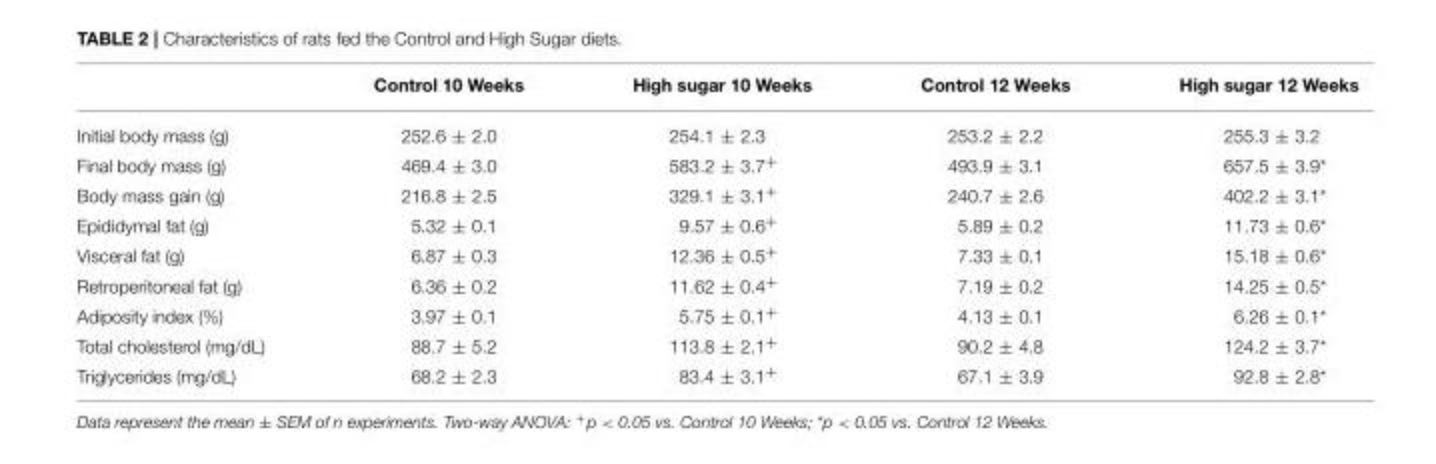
<table><thead><tr><td></td><td>Control 10 Weeks</td><td>High sugar 10 Weeks</td><td>Control 12 Weeks</td><td>High sugar 12 Weeks</td></tr></thead><tbody><tr><td>Initial body mass (g)</td><td>252.6 ± 2.0</td><td>254.1 ± 2.3</td><td>253.2 ± 2.2</td><td>255.3 ± 3.2</td></tr><tr><td>Final body mass (g)</td><td>469.4 ± 3.0</td><td>583.2 ± 3.7<sup>+</sup></td><td>493.9 ± 3.1</td><td>657.5 ± 3.9*</td></tr><tr><td>Body mass gain (g)</td><td>216.8 ± 2.5</td><td>329.1 ± 3.1<sup>+</sup></td><td>240.7 ± 2.6</td><td>402.2 ± 3.1*</td></tr><tr><td>Epididymal fat (g)</td><td>5.32 ± 0.1</td><td>9.57 ± 0.6<sup>+</sup></td><td>5.89 ± 0.2</td><td>11.73 ± 0.6*</td></tr><tr><td>Visceral fat (g)</td><td>6.87 ± 0.3</td><td>12.36 ± 0.5<sup>+</sup></td><td>7.33 ± 0.1</td><td>15.18 ± 0.6*</td></tr><tr><td>Retroperitoneal fat (g)</td><td>6.36 ± 0.2</td><td>11.62 ± 0.4<sup>+</sup></td><td>7.19 ± 0.2</td><td>14.25 ± 0.5*</td></tr><tr><td>Adiposity index (%)</td><td>3.97 ± 0.1</td><td>5.75 ± 0.1<sup>+</sup></td><td>4.13 ± 0.1</td><td>6.26 ± 0.1*</td></tr><tr><td>Total cholesterol (mg/dL)</td><td>88.7 ± 5.2</td><td>113.8 ± 2.1<sup>+</sup></td><td>90.2 ± 4.8</td><td>124.2 ± 3.7*</td></tr><tr><td>Triglycerides (mg/dL)</td><td>68.2 ± 2.3</td><td>83.4 ± 3.1<sup>+</sup></td><td>67.1 ± 3.9</td><td>92.8 ± 2.8*</td></tr></tbody></table>